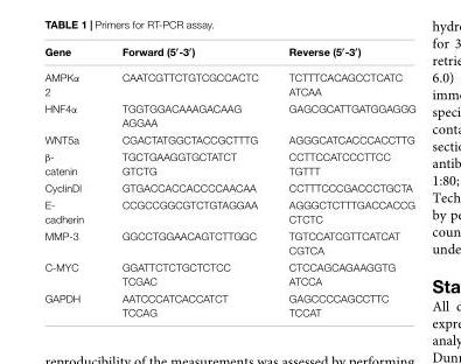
<table><thead><tr><td>Gene</td><td>Forward (5′-3′)</td><td>Reverse (5′-3′)</td></tr></thead><tbody><tr><td>AMPKα 2</td><td>CAATCGTTCTGTCGCCACTC</td><td>TCTTTCACAGCCTCATC ATCAA</td></tr><tr><td>HNF4α</td><td>TGGTGGACAAAGACAAG AGGAA</td><td>GAGCGCATTGATGGAGGG</td></tr><tr><td>WNT5a</td><td>CGACTATGGCTACCGCTTTG</td><td>AGGGCATCACCCACCTTG</td></tr><tr><td>β- catenin</td><td>TGCTGAAGGTGCTATCT GTCTG</td><td>CCTTCCATCCCTTCC TGTTT</td></tr><tr><td>CyclinDl</td><td>GTGACCACCACCCCAACAA</td><td>CCTTTCCCGACCCTGCTA</td></tr><tr><td>E- cadherin</td><td>CCGCCGGCGTCTGTAGGAA</td><td>AGGGCTCTTTGACCACCG CTCTC</td></tr><tr><td>MMP-3</td><td>GGCCTGGAACAGTCTTGGC</td><td>TGTCCATCGTTCATCAT CGTCA</td></tr><tr><td>C-MYC</td><td>GGATTCTCTGCTCTCC TCGAC</td><td>CTCCAGCAGAAGGTG ATCCA</td></tr><tr><td>GAPDH</td><td>AATCCCATCACCATCT TCCAG</td><td>GAGCCCCAGCCTTC TCCAT</td></tr></tbody></table>